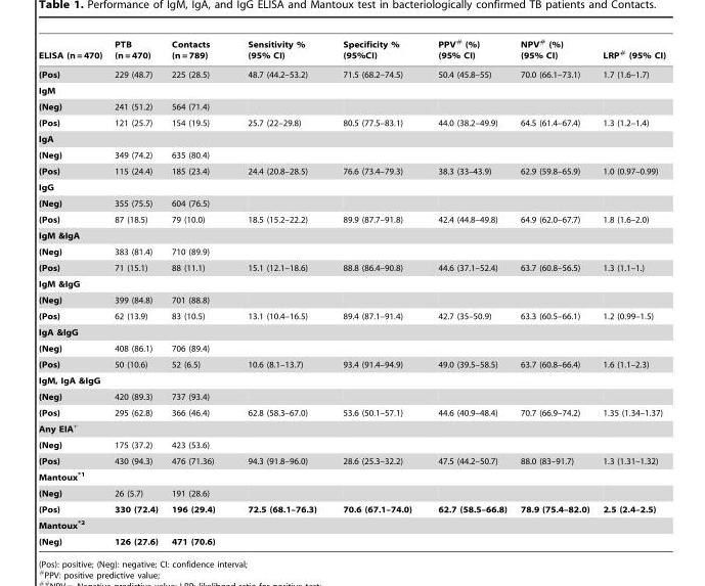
<table><thead><tr><td>ELISA (n = 470)</td><td>PTB (n = 470)</td><td>Contacts (n = 789)</td><td>Sensitivity % (95% CI)</td><td>Specificity % (95%CI)</td><td>PPV# (%) (95% CI)</td><td>NPV# (%) (95% CI)</td><td>LRP# (95% CI)</td></tr></thead><tbody><tr><td>(Pos)</td><td>229 (48.7)</td><td>225 (28.5)</td><td>48.7 (44.2–53.2)</td><td>71.5 (68.2–74.5)</td><td>50.4 (45.8–55)</td><td>70.0 (66.1–73.1)</td><td>1.7 (1.6–1.7)</td></tr><tr><td colspan="8">IgM</td></tr><tr><td>(Neg)</td><td>241 (51.2)</td><td>564 (71.4)</td><td></td><td></td><td></td><td></td><td></td></tr><tr><td>(Pos)</td><td>121 (25.7)</td><td>154 (19.5)</td><td>25.7 (22–29.8)</td><td>80.5 (77.5–83.1)</td><td>44.0 (38.2–49.9)</td><td>64.5 (61.4–67.4)</td><td>1.3 (1.2–1.4)</td></tr><tr><td colspan="8">IgA</td></tr><tr><td>(Neg)</td><td>349 (74.2)</td><td>635 (80.4)</td><td></td><td></td><td></td><td></td><td></td></tr><tr><td>(Pos)</td><td>115 (24.4)</td><td>185 (23.4)</td><td>24.4 (20.8–28.5)</td><td>76.6 (73.4–79.3)</td><td>38.3 (33–43.9)</td><td>62.9 (59.8–65.9)</td><td>1.0 (0.97–0.99)</td></tr><tr><td colspan="8">IgG</td></tr><tr><td>(Neg)</td><td>355 (75.5)</td><td>604 (76.5)</td><td></td><td></td><td></td><td></td><td></td></tr><tr><td>(Pos)</td><td>87 (18.5)</td><td>79 (10.0)</td><td>18.5 (15.2–22.2)</td><td>89.9 (87.7–91.8)</td><td>42.4 (44.8–49.8)</td><td>64.9 (62.0–67.7)</td><td>1.8 (1.6–2.0)</td></tr><tr><td colspan="8">IgM &amp;IgA</td></tr><tr><td>(Neg)</td><td>383 (81.4)</td><td>710 (89.9)</td><td></td><td></td><td></td><td></td><td></td></tr><tr><td>(Pos)</td><td>71 (15.1)</td><td>88 (11.1)</td><td>15.1 (12.1–18.6)</td><td>88.8 (86.4–90.8)</td><td>44.6 (37.1–52.4)</td><td>63.7 (60.8–56.5)</td><td>1.3 (1.1–1.)</td></tr><tr><td colspan="8">IgM &amp;IgG</td></tr><tr><td>(Neg)</td><td>399 (84.8)</td><td>701 (88.8)</td><td></td><td></td><td></td><td></td><td></td></tr><tr><td>(Pos)</td><td>62 (13.9)</td><td>83 (10.5)</td><td>13.1 (10.4–16.5)</td><td>89.4 (87.1–91.4)</td><td>42.7 (35–50.9)</td><td>63.3 (60.5–66.1)</td><td>1.2 (0.99–1.5)</td></tr><tr><td colspan="8">IgA &amp;IgG</td></tr><tr><td>(Neg)</td><td>408 (86.1)</td><td>706 (89.4)</td><td></td><td></td><td></td><td></td><td></td></tr><tr><td>(Pos)</td><td>50 (10.6)</td><td>52 (6.5)</td><td>10.6 (8.1–13.7)</td><td>93.4 (91.4–94.9)</td><td>49.0 (39.5–58.5)</td><td>63.7 (60.8–66.4)</td><td>1.6 (1.1–2.3)</td></tr><tr><td colspan="8">IgM, IgA &amp;IgG</td></tr><tr><td>(Neg)</td><td>420 (89.3)</td><td>737 (93.4)</td><td></td><td></td><td></td><td></td><td></td></tr><tr><td>(Pos)</td><td>295 (62.8)</td><td>366 (46.4)</td><td>62.8 (58.3–67.0)</td><td>53.6 (50.1–57.1)</td><td>44.6 (40.9–48.4)</td><td>70.7 (66.9–74.2)</td><td>1.35 (1.34–1.37)</td></tr><tr><td colspan="8">Any EIA+</td></tr><tr><td>(Neg)</td><td>175 (37.2)</td><td>423 (53.6)</td><td></td><td></td><td></td><td></td><td></td></tr><tr><td>(Pos)</td><td>430 (94.3)</td><td>476 (71.36)</td><td>94.3 (91.8–96.0)</td><td>28.6 (25.3–32.2)</td><td>47.5 (44.2–50.7)</td><td>88.0 (83–91.7)</td><td>1.3 (1.31–1.32)</td></tr><tr><td colspan="8">Mantoux*<sup>1</sup></td></tr><tr><td>(Neg)</td><td>26 (5.7)</td><td>191 (28.6)</td><td></td><td></td><td></td><td></td><td></td></tr><tr><td>(Pos)</td><td>330 (72.4)</td><td>196 (29.4)</td><td>72.5 (68.1–76.3)</td><td>70.6 (67.1–74.0)</td><td>62.7 (58.5–66.8)</td><td>78.9 (75.4–82.0)</td><td>2.5 (2.4–2.5)</td></tr><tr><td colspan="8">Mantoux*<sup>2</sup></td></tr><tr><td>(Neg)</td><td>126 (27.6)</td><td>471 (70.6)</td><td></td><td></td><td></td><td></td><td></td></tr></tbody></table>